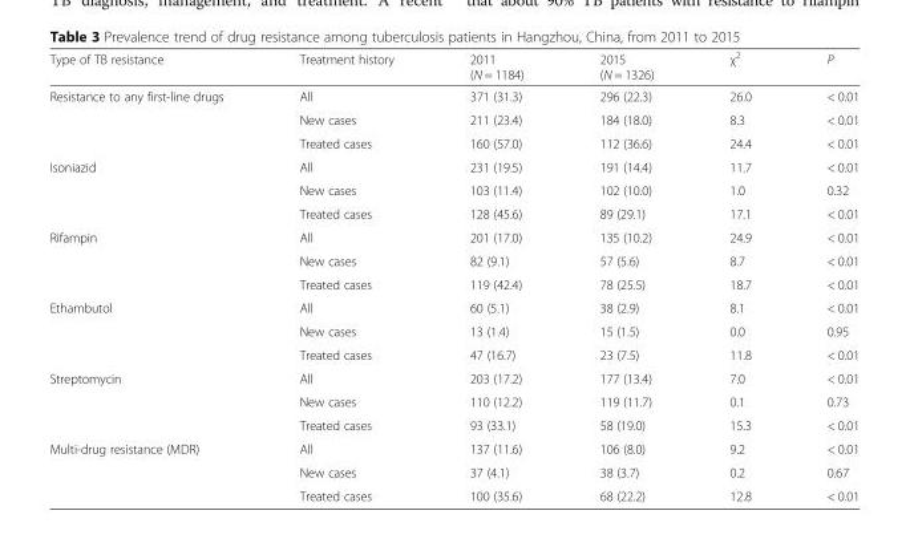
<table><thead><tr><td>Type of TB resistance</td><td>Treatment history</td><td>2011 (N = 1184)</td><td>2015 (N = 1326)</td><td>χ<sup>2</sup></td><td>P</td></tr></thead><tbody><tr><td rowspan="3">Resistance to any first-line drugs</td><td>All</td><td>371 (31.3)</td><td>296 (22.3)</td><td>26.0</td><td>&lt; 0.01</td></tr><tr><td>New cases</td><td>211 (23.4)</td><td>184 (18.0)</td><td>8.3</td><td>&lt; 0.01</td></tr><tr><td>Treated cases</td><td>160 (57.0)</td><td>112 (36.6)</td><td>24.4</td><td>&lt; 0.01</td></tr><tr><td rowspan="3">Isoniazid</td><td>All</td><td>231 (19.5)</td><td>191 (14.4)</td><td>11.7</td><td>&lt; 0.01</td></tr><tr><td>New cases</td><td>103 (11.4)</td><td>102 (10.0)</td><td>1.0</td><td>0.32</td></tr><tr><td>Treated cases</td><td>128 (45.6)</td><td>89 (29.1)</td><td>17.1</td><td>&lt; 0.01</td></tr><tr><td rowspan="3">Rifampin</td><td>All</td><td>201 (17.0)</td><td>135 (10.2)</td><td>24.9</td><td>&lt; 0.01</td></tr><tr><td>New cases</td><td>82 (9.1)</td><td>57 (5.6)</td><td>8.7</td><td>&lt; 0.01</td></tr><tr><td>Treated cases</td><td>119 (42.4)</td><td>78 (25.5)</td><td>18.7</td><td>&lt; 0.01</td></tr><tr><td rowspan="3">Ethambutol</td><td>All</td><td>60 (5.1)</td><td>38 (2.9)</td><td>8.1</td><td>&lt; 0.01</td></tr><tr><td>New cases</td><td>13 (1.4)</td><td>15 (1.5)</td><td>0.0</td><td>0.95</td></tr><tr><td>Treated cases</td><td>47 (16.7)</td><td>23 (7.5)</td><td>11.8</td><td>&lt; 0.01</td></tr><tr><td rowspan="3">Streptomycin</td><td>All</td><td>203 (17.2)</td><td>177 (13.4)</td><td>7.0</td><td>&lt; 0.01</td></tr><tr><td>New cases</td><td>110 (12.2)</td><td>119 (11.7)</td><td>0.1</td><td>0.73</td></tr><tr><td>Treated cases</td><td>93 (33.1)</td><td>58 (19.0)</td><td>15.3</td><td>&lt; 0.01</td></tr><tr><td rowspan="3">Multi-drug resistance (MDR)</td><td>All</td><td>137 (11.6)</td><td>106 (8.0)</td><td>9.2</td><td>&lt; 0.01</td></tr><tr><td>New cases</td><td>37 (4.1)</td><td>38 (3.7)</td><td>0.2</td><td>0.67</td></tr><tr><td>Treated cases</td><td>100 (35.6)</td><td>68 (22.2)</td><td>12.8</td><td>&lt; 0.01</td></tr></tbody></table>